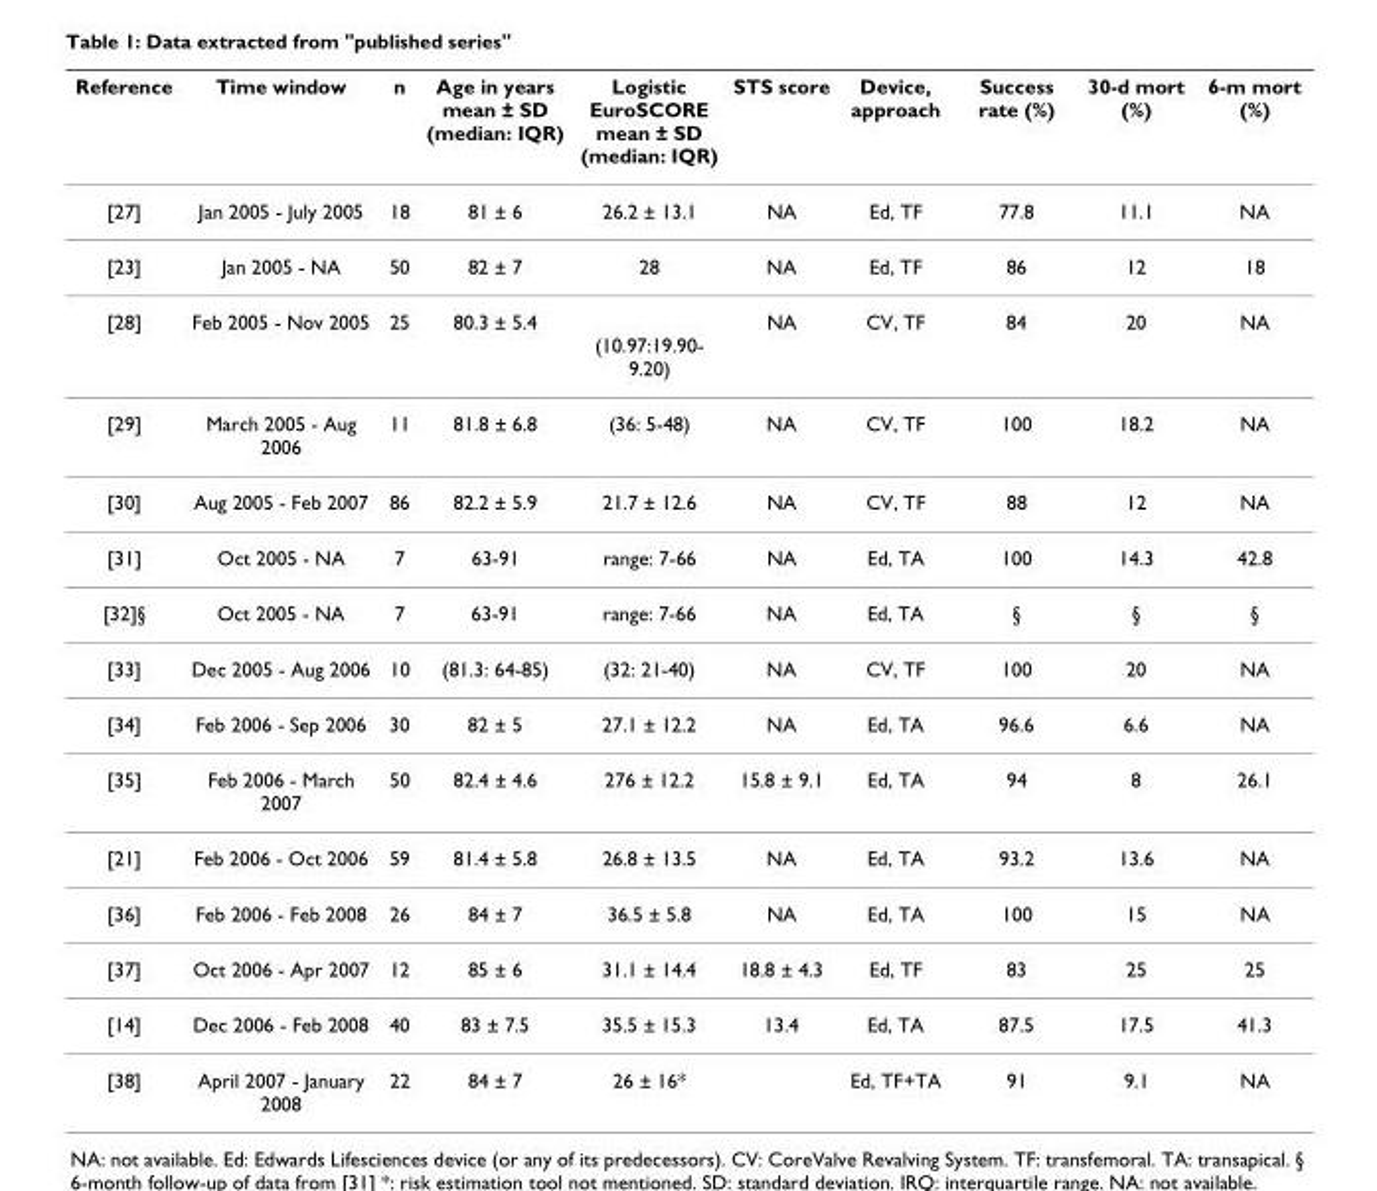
<table><thead><tr><td>Reference</td><td>Time window</td><td>n</td><td>Age in years mean ± SD (median: IQR)</td><td>Logistic EuroSCORE mean ± SD (median: IQR)</td><td>STS score</td><td>Device, approach</td><td>Success rate (%)</td><td>30-d mort (%)</td><td>6-m mort (%)</td></tr></thead><tbody><tr><td>[27]</td><td>Jan 2005 - July 2005</td><td>18</td><td>81 ± 6</td><td>26.2 ± 13.1</td><td>NA</td><td>Ed, TF</td><td>77.8</td><td>11.1</td><td>NA</td></tr><tr><td>[23]</td><td>Jan 2005 - NA</td><td>50</td><td>82 ± 7</td><td>28</td><td>NA</td><td>Ed, TF</td><td>86</td><td>12</td><td>18</td></tr><tr><td>[28]</td><td>Feb 2005 - Nov 2005</td><td>25</td><td>80.3 ± 5.4</td><td>(10.97:19.90- 9.20)</td><td>NA</td><td>CV, TF</td><td>84</td><td>20</td><td>NA</td></tr><tr><td>[29]</td><td>March 2005 - Aug 2006</td><td>11</td><td>81.8 ± 6.8</td><td>(36: 5-48)</td><td>NA</td><td>CV, TF</td><td>100</td><td>18.2</td><td>NA</td></tr><tr><td>[30]</td><td>Aug 2005 - Feb 2007</td><td>86</td><td>82.2 ± 5.9</td><td>21.7 ± 12.6</td><td>NA</td><td>CV, TF</td><td>88</td><td>12</td><td>NA</td></tr><tr><td>[31]</td><td>Oct 2005 - NA</td><td>7</td><td>63-91</td><td>range: 7-66</td><td>NA</td><td>Ed, TA</td><td>100</td><td>14.3</td><td>42.8</td></tr><tr><td>[32]§</td><td>Oct 2005 - NA</td><td>7</td><td>63-91</td><td>range: 7-66</td><td>NA</td><td>Ed, TA</td><td>§</td><td>§</td><td>§</td></tr><tr><td>[33]</td><td>Dec 2005 - Aug 2006</td><td>10</td><td>(81.3: 64-85)</td><td>(32: 21-40)</td><td>NA</td><td>CV, TF</td><td>100</td><td>20</td><td>NA</td></tr><tr><td>[34]</td><td>Feb 2006 - Sep 2006</td><td>30</td><td>82 ± 5</td><td>27.1 ± 12.2</td><td>NA</td><td>Ed, TA</td><td>96.6</td><td>6.6</td><td>NA</td></tr><tr><td>[35]</td><td>Feb 2006 - March 2007</td><td>50</td><td>82.4 ± 4.6</td><td>276 ± 12.2</td><td>15.8 ± 9.1</td><td>Ed, TA</td><td>94</td><td>8</td><td>26.1</td></tr><tr><td>[21]</td><td>Feb 2006 - Oct 2006</td><td>59</td><td>81.4 ± 5.8</td><td>26.8 ± 13.5</td><td>NA</td><td>Ed, TA</td><td>93.2</td><td>13.6</td><td>NA</td></tr><tr><td>[36]</td><td>Feb 2006 - Feb 2008</td><td>26</td><td>84 ± 7</td><td>36.5 ± 5.8</td><td>NA</td><td>Ed, TA</td><td>100</td><td>15</td><td>NA</td></tr><tr><td>[37]</td><td>Oct 2006 - Apr 2007</td><td>12</td><td>85 ± 6</td><td>31.1 ± 14.4</td><td>18.8 ± 4.3</td><td>Ed, TF</td><td>83</td><td>25</td><td>25</td></tr><tr><td>[14]</td><td>Dec 2006 - Feb 2008</td><td>40</td><td>83 ± 7.5</td><td>35.5 ± 15.3</td><td>13.4</td><td>Ed, TA</td><td>87.5</td><td>17.5</td><td>41.3</td></tr><tr><td>[38]</td><td>April 2007 - January 2008</td><td>22</td><td>84 ± 7</td><td>26 ± 16*</td><td></td><td>Ed, TF+TA</td><td>91</td><td>9.1</td><td>NA</td></tr></tbody></table>